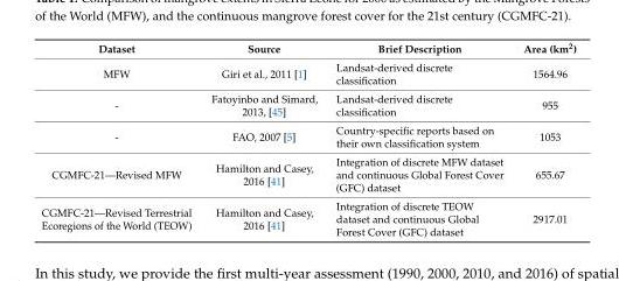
<table><thead><tr><td>Dataset</td><td>Source</td><td>Brief Description</td><td>Area (km<sup>2</sup>)</td></tr></thead><tbody><tr><td>MFW</td><td>Giri et al., 2011 [1]</td><td>Landsat-derived discrete classification</td><td>1564.96</td></tr><tr><td>-</td><td>Fatoyinbo and Simard, 2013, [45]</td><td>Landsat-derived discrete classification</td><td>955</td></tr><tr><td>-</td><td>FAO, 2007 [5]</td><td>Country-specific reports based on their own classification system</td><td>1053</td></tr><tr><td>CGMFC-21—Revised MFW</td><td>Hamilton and Casey, 2016 [41]</td><td>Integration of discrete MFW dataset and continuous Global Forest Cover (GFC) dataset</td><td>655.67</td></tr><tr><td>CGMFC-21—Revised Terrestrial Ecoregions of the World (TEOW)</td><td>Hamilton and Casey, 2016 [41]</td><td>Integration of discrete TEOW dataset and continuous Global Forest Cover (GFC) dataset</td><td>2917.01</td></tr></tbody></table>